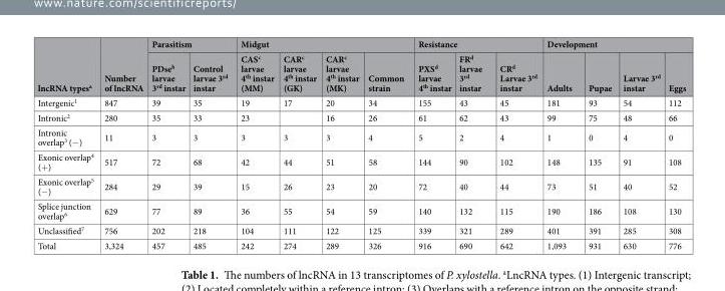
<table><thead><tr><td rowspan="2">lncRNA types<sup>a</sup></td><td rowspan="2">Number of lncRNA</td><td colspan="2">Parasitism</td><td colspan="4">Midgut</td><td colspan="3">Resistance</td><td colspan="4">Development</td></tr><tr><td>PDse<sup>b</sup> larvae 3<sup>rd</sup> instar</td><td>Control larvae 3<sup>rd</sup> instar</td><td>CAS<sup>c</sup> larvae 4<sup>th</sup> instar (MM)</td><td>CAR<sup>c</sup> larvae 4<sup>th</sup> instar (GK)</td><td>CAR<sup>c</sup> larvae 4<sup>th</sup> instar (MK)</td><td>Common strain</td><td>PXS<sup>d</sup> larvae 4<sup>th</sup> instar</td><td>FR<sup>d</sup> larvae 3<sup>rd</sup> instar</td><td>CR<sup>d</sup> Larvae 3<sup>rd</sup> instar</td><td>Adults</td><td>Pupae</td><td>Larvae 3<sup>rd</sup> instar</td><td>Eggs</td></tr></thead><tbody><tr><td>Intergenic<sup>1</sup></td><td>847</td><td>39</td><td>35</td><td>19</td><td>17</td><td>20</td><td>34</td><td>155</td><td>43</td><td>45</td><td>181</td><td>93</td><td>54</td><td>112</td></tr><tr><td>Intronic<sup>2</sup></td><td>280</td><td>35</td><td>33</td><td>23</td><td></td><td>16</td><td>26</td><td>61</td><td>62</td><td>43</td><td>99</td><td>75</td><td>48</td><td>66</td></tr><tr><td>Intronic overlap<sup>3</sup> (−)</td><td>11</td><td>3</td><td>3</td><td>3</td><td>3</td><td>3</td><td>4</td><td>5</td><td>2</td><td>4</td><td>1</td><td>0</td><td>4</td><td>0</td></tr><tr><td>Exonic overlap<sup>4</sup> (+)</td><td>517</td><td>72</td><td>68</td><td>42</td><td>44</td><td>51</td><td>58</td><td>144</td><td>90</td><td>102</td><td>148</td><td>135</td><td>91</td><td>108</td></tr><tr><td>Exonic overlap<sup>5</sup> (−)</td><td>284</td><td>29</td><td>39</td><td>15</td><td>26</td><td>23</td><td>20</td><td>72</td><td>40</td><td>44</td><td>73</td><td>51</td><td>40</td><td>52</td></tr><tr><td>Splice junction overlap<sup>6</sup></td><td>629</td><td>77</td><td>89</td><td>36</td><td>55</td><td>54</td><td>59</td><td>140</td><td>132</td><td>115</td><td>190</td><td>186</td><td>108</td><td>130</td></tr><tr><td>Unclassified<sup>7</sup></td><td>756</td><td>202</td><td>218</td><td>104</td><td>111</td><td>122</td><td>125</td><td>339</td><td>321</td><td>289</td><td>401</td><td>391</td><td>285</td><td>308</td></tr><tr><td>Total</td><td>3,324</td><td>457</td><td>485</td><td>242</td><td>274</td><td>289</td><td>326</td><td>916</td><td>690</td><td>642</td><td>1,093</td><td>931</td><td>630</td><td>776</td></tr></tbody></table>